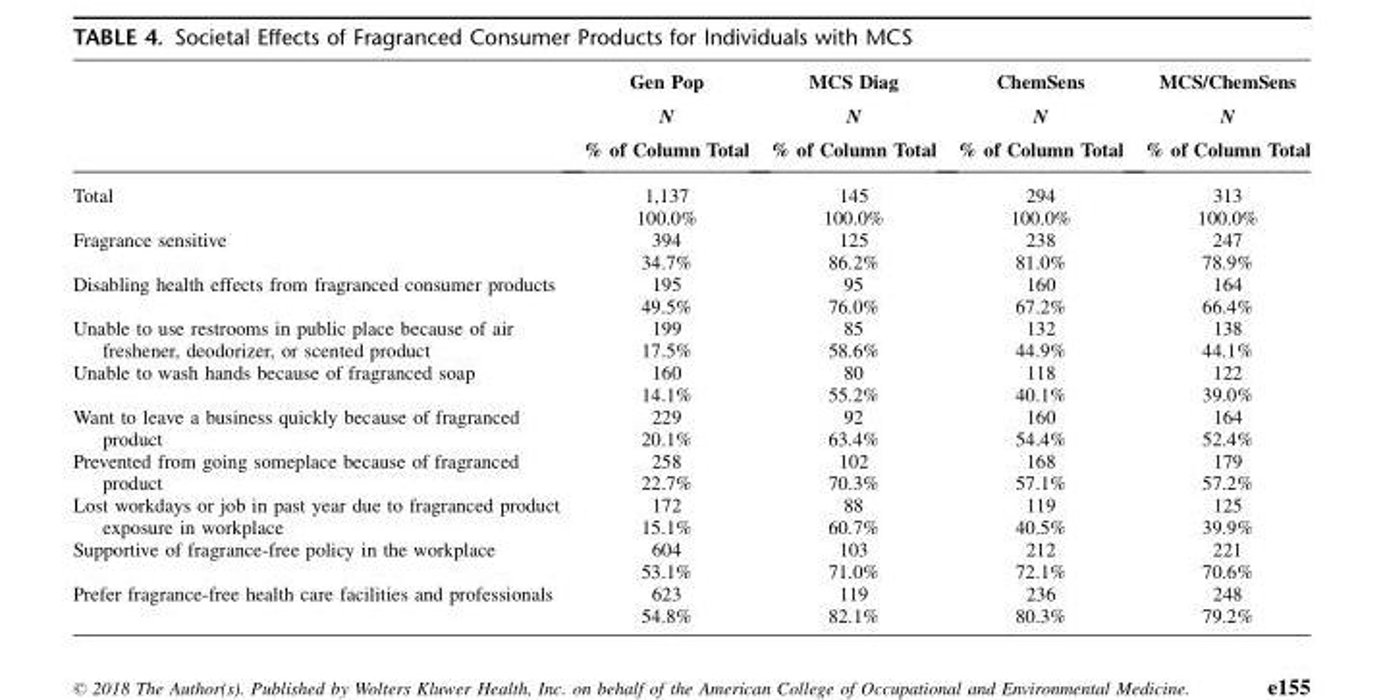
<table><thead><tr><td rowspan="3"></td><td rowspan="3">Gen Pop N % of Column Total</td><td rowspan="3">MCS Diag N % of Column Total</td><td rowspan="3">ChemSens N % of Column Total</td><td rowspan="3">MCS/ChemSens N % of Column Total</td></tr><tr></tr><tr></tr></thead><tbody><tr><td rowspan="2">Total</td><td>1,137</td><td>145</td><td>294</td><td>313</td></tr><tr><td>100.0%</td><td>100.0%</td><td>100.0%</td><td>100.0%</td></tr><tr><td rowspan="2">Fragrance sensitive</td><td>394</td><td>125</td><td>238</td><td>247</td></tr><tr><td>34.7%</td><td>86.2%</td><td>81.0%</td><td>78.9%</td></tr><tr><td rowspan="2">Disabling health effects from fragranced consumer products</td><td>195</td><td>95</td><td>160</td><td>164</td></tr><tr><td>49.5%</td><td>76.0%</td><td>67.2%</td><td>66.4%</td></tr><tr><td>Unable to use restrooms in public place because of air freshener, deodorizer, or scented product</td><td>199 17.5%</td><td>85 58.6%</td><td>132 44.9%</td><td>138 44.1%</td></tr><tr><td rowspan="2">Unable to wash hands because of fragranced soap</td><td>160</td><td>80</td><td>118</td><td>122</td></tr><tr><td>14.1%</td><td>55.2%</td><td>40.1%</td><td>39.0%</td></tr><tr><td>Want to leave a business quickly because of fragranced product</td><td>229 20.1%</td><td>92 63.4%</td><td>160 54.4%</td><td>164 52.4%</td></tr><tr><td>Prevented from going someplace because of fragranced product</td><td>258 22.7%</td><td>102 70.3%</td><td>168 57.1%</td><td>179 57.2%</td></tr><tr><td>Lost workdays or job in past year due to fragranced product exposure in workplace</td><td>172 15.1%</td><td>88 60.7%</td><td>119 40.5%</td><td>125 39.9%</td></tr><tr><td rowspan="2">Supportive of fragrance-free policy in the workplace</td><td>604</td><td>103</td><td>212</td><td>221</td></tr><tr><td>53.1%</td><td>71.0%</td><td>72.1%</td><td>70.6%</td></tr><tr><td rowspan="2">Prefer fragrance-free health care facilities and professionals</td><td>623</td><td>119</td><td>236</td><td>248</td></tr><tr><td>54.8%</td><td>82.1%</td><td>80.3%</td><td>79.2%</td></tr></tbody></table>